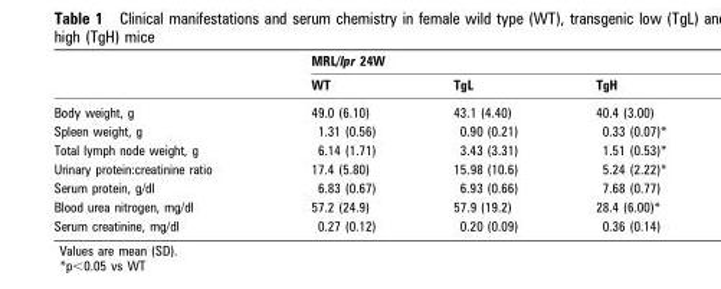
<table><thead><tr><td rowspan="2"></td><td colspan="3">MRL/lpr 24W</td></tr><tr><td>WT</td><td>TgL</td><td>TgH</td></tr></thead><tbody><tr><td>Body weight, g</td><td>49.0 (6.10)</td><td>43.1 (4.40)</td><td>40.4 (3.00)</td></tr><tr><td>Spleen weight, g</td><td>1.31 (0.56)</td><td>0.90 (0.21)</td><td>0.33 (0.07)*</td></tr><tr><td>Total lymph node weight, g</td><td>6.14 (1.71)</td><td>3.43 (3.31)</td><td>1.51 (0.53)*</td></tr><tr><td>Urinary protein:creatinine ratio</td><td>17.4 (5.80)</td><td>15.98 (10.6)</td><td>5.24 (2.22)*</td></tr><tr><td>Serum protein, g/dl</td><td>6.83 (0.67)</td><td>6.93 (0.66)</td><td>7.68 (0.77)</td></tr><tr><td>Blood urea nitrogen, mg/dl</td><td>57.2 (24.9)</td><td>57.9 (19.2)</td><td>28.4 (6.00)*</td></tr><tr><td>Serum creatinine, mg/dl</td><td>0.27 (0.12)</td><td>0.20 (0.09)</td><td>0.36 (0.14)</td></tr></tbody></table>